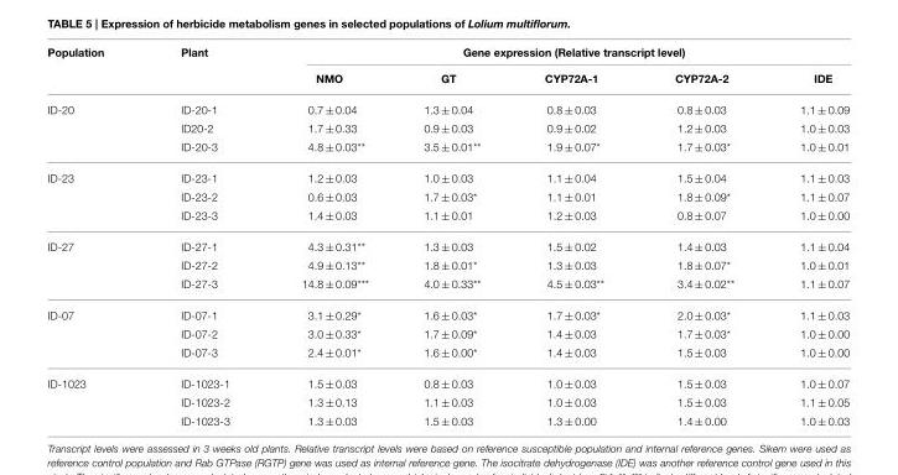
<table><thead><tr><td rowspan="2">Population</td><td rowspan="2">Plant</td><td colspan="5">Gene expression (Relative transcript level)</td></tr><tr><td>NMO</td><td>GT</td><td>CYP72A-1</td><td>CYP72A-2</td><td>IDE</td></tr></thead><tbody><tr><td rowspan="3">ID-20</td><td>ID-20-1</td><td>0.7 ± 0.04</td><td>1.3 ± 0.04</td><td>0.8 ± 0.03</td><td>0.8 ± 0.03</td><td>1.1 ± 0.09</td></tr><tr><td>ID20-2</td><td>1.7 ± 0.33</td><td>0.9 ± 0.03</td><td>0.9 ± 0.02</td><td>1.2 ± 0.03</td><td>1.0 ± 0.03</td></tr><tr><td>ID-20-3</td><td>4.8 ± 0.03**</td><td>3.5 ± 0.01**</td><td>1.9 ± 0.07*</td><td>1.7 ± 0.03*</td><td>1.0 ± 0.01</td></tr><tr><td rowspan="3">ID-23</td><td>ID-23-1</td><td>1.2 ± 0.03</td><td>1.0 ± 0.03</td><td>1.1 ± 0.04</td><td>1.5 ± 0.04</td><td>1.1 ± 0.03</td></tr><tr><td>ID-23-2</td><td>0.6 ± 0.03</td><td>1.7 ± 0.03*</td><td>1.1 ± 0.01</td><td>1.8 ± 0.09*</td><td>1.1 ± 0.07</td></tr><tr><td>ID-23-3</td><td>1.4 ± 0.03</td><td>1.1 ± 0.01</td><td>1.2 ± 0.03</td><td>0.8 ± 0.07</td><td>1.0 ± 0.00</td></tr><tr><td rowspan="3">ID-27</td><td>ID-27-1</td><td>4.3 ± 0.31**</td><td>1.3 ± 0.03</td><td>1.5 ± 0.02</td><td>1.4 ± 0.03</td><td>1.1 ± 0.04</td></tr><tr><td>ID-27-2</td><td>4.9 ± 0.13**</td><td>1.8 ± 0.01*</td><td>1.3 ± 0.03</td><td>1.8 ± 0.07*</td><td>1.0 ± 0.01</td></tr><tr><td>ID-27-3</td><td>14.8 ± 0.09***</td><td>4.0 ± 0.33**</td><td>4.5 ± 0.03**</td><td>3.4 ± 0.02**</td><td>1.1 ± 0.07</td></tr><tr><td rowspan="3">ID-07</td><td>ID-07-1</td><td>3.1 ± 0.29*</td><td>1.6 ± 0.03*</td><td>1.7 ± 0.03*</td><td>2.0 ± 0.03*</td><td>1.1 ± 0.03</td></tr><tr><td>ID-07-2</td><td>3.0 ± 0.33*</td><td>1.7 ± 0.09*</td><td>1.4 ± 0.03</td><td>1.7 ± 0.03*</td><td>1.0 ± 0.00</td></tr><tr><td>ID-07-3</td><td>2.4 ± 0.01*</td><td>1.6 ± 0.00*</td><td>1.4 ± 0.03</td><td>1.5 ± 0.03</td><td>1.0 ± 0.00</td></tr><tr><td rowspan="3">ID-1023</td><td>ID-1023-1</td><td>1.5 ± 0.03</td><td>0.8 ± 0.03</td><td>1.0 ± 0.03</td><td>1.5 ± 0.03</td><td>1.0 ± 0.07</td></tr><tr><td>ID-1023-2</td><td>1.3 ± 0.13</td><td>1.1 ± 0.03</td><td>1.0 ± 0.03</td><td>1.5 ± 0.03</td><td>1.1 ± 0.05</td></tr><tr><td>ID-1023-3</td><td>1.3 ± 0.03</td><td>1.5 ± 0.03</td><td>1.3 ± 0.00</td><td>1.4 ± 0.00</td><td>1.0 ± 0.03</td></tr></tbody></table>